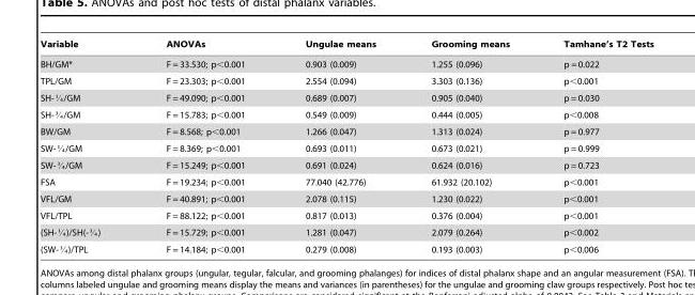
<table><thead><tr><td>Variable</td><td>ANOVAs</td><td>Ungulae means</td><td>Grooming means</td><td>Tamhane’s T2 Tests</td></tr></thead><tbody><tr><td>BH/GM*</td><td>F = 33.530; p&lt;0.001</td><td>0.903 (0.009)</td><td>1.255 (0.096)</td><td>p = 0.022</td></tr><tr><td>TPL/GM</td><td>F = 23.303; p&lt;0.001</td><td>2.554 (0.094)</td><td>3.303 (0.136)</td><td>p&lt;0.001</td></tr><tr><td>SH-J/GM</td><td>F = 49.090; p&lt;0.001</td><td>0.689 (0.007)</td><td>0.905 (0.040)</td><td>p = 0.030</td></tr><tr><td>SH-L/GM</td><td>F = 15.783; p&lt;0.001</td><td>0.549 (0.009)</td><td>0.444 (0.005)</td><td>p&lt;0.008</td></tr><tr><td>BW/GM</td><td>F = 8.568; p&lt;0.001</td><td>1.266 (0.047)</td><td>1.313 (0.024)</td><td>p = 0.977</td></tr><tr><td>SW-J/GM</td><td>F = 8.369; p&lt;0.001</td><td>0.693 (0.011)</td><td>0.673 (0.021)</td><td>p = 0.999</td></tr><tr><td>SW-L/GM</td><td>F = 15.249; p&lt;0.001</td><td>0.691 (0.024)</td><td>0.624 (0.016)</td><td>p = 0.723</td></tr><tr><td>FSA</td><td>F = 19.234; p&lt;0.001</td><td>77.040 (42.776)</td><td>61.932 (20.102)</td><td>p&lt;0.001</td></tr><tr><td>VFL/GM</td><td>F = 40.891; p&lt;0.001</td><td>2.078 (0.115)</td><td>1.230 (0.022)</td><td>p&lt;0.001</td></tr><tr><td>VFL/TPL</td><td>F = 88.122; p&lt;0.001</td><td>0.817 (0.013)</td><td>0.376 (0.004)</td><td>p&lt;0.001</td></tr><tr><td>(SH-J)/SH(-L)</td><td>F = 15.729; p&lt;0.001</td><td>1.281 (0.047)</td><td>2.079 (0.264)</td><td>p&lt;0.002</td></tr><tr><td>(SW-L)/TPL</td><td>F = 14.184; p&lt;0.001</td><td>0.279 (0.008)</td><td>0.193 (0.003)</td><td>p&lt;0.006</td></tr></tbody></table>